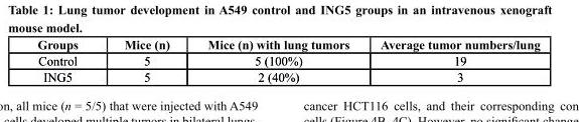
<table><thead><tr><td>Groups</td><td>Mice (n)</td><td>Mice (n) with lung tumors</td><td>Average tumor numbers/lung</td></tr></thead><tbody><tr><td>Control</td><td>5</td><td>5 (100%)</td><td>19</td></tr><tr><td>ING5</td><td>5</td><td>2 (40%)</td><td>3</td></tr></tbody></table>